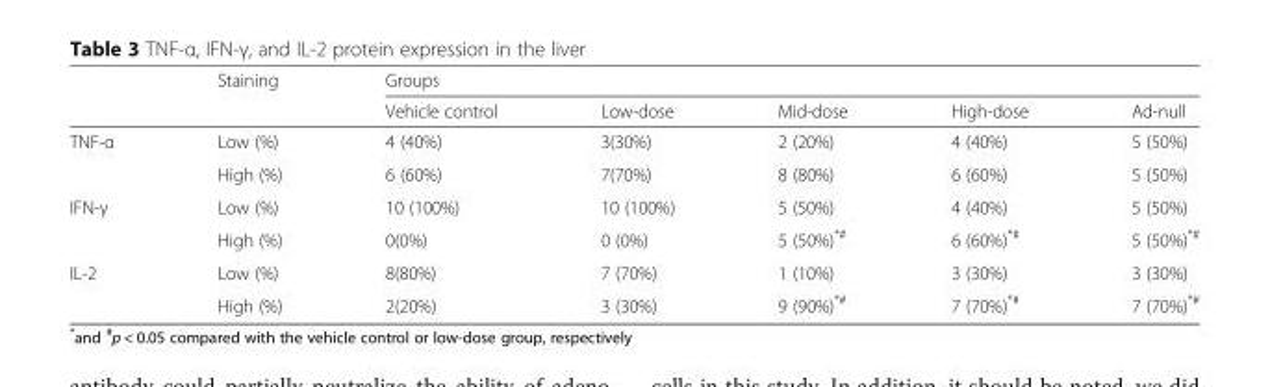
<table><thead><tr><td rowspan="2"></td><td rowspan="2">Staining</td><td colspan="5">Groups</td></tr><tr><td>Vehicle control</td><td>Low-dose</td><td>Mid-dose</td><td>High-dose</td><td>Ad-null</td></tr></thead><tbody><tr><td rowspan="2">TNF-α</td><td>Low (%)</td><td>4 (40%)</td><td>3(30%)</td><td>2 (20%)</td><td>4 (40%)</td><td>5 (50%)</td></tr><tr><td>High (%)</td><td>6 (60%)</td><td>7(70%)</td><td>8 (80%)</td><td>6 (60%)</td><td>5 (50%)</td></tr><tr><td rowspan="2">IFN-γ</td><td>Low (%)</td><td>10 (100%)</td><td>10 (100%)</td><td>5 (50%)</td><td>4 (40%)</td><td>5 (50%)</td></tr><tr><td>High (%)</td><td>0(0%)</td><td>0 (0%)</td><td>5 (50%)<sup>*#</sup></td><td>6 (60%)<sup>*#</sup></td><td>5 (50%)<sup>*#</sup></td></tr><tr><td rowspan="2">IL-2</td><td>Low (%)</td><td>8(80%)</td><td>7 (70%)</td><td>1 (10%)</td><td>3 (30%)</td><td>3 (30%)</td></tr><tr><td>High (%)</td><td>2(20%)</td><td>3 (30%)</td><td>9 (90%)<sup>*#</sup></td><td>7 (70%)<sup>*#</sup></td><td>7 (70%)<sup>*#</sup></td></tr></tbody></table>